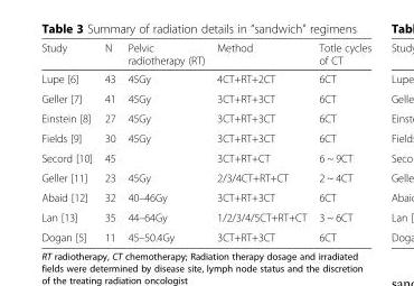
<table><thead><tr><td>Study</td><td>N</td><td>Pelvic radiotherapy (RT)</td><td>Method</td><td>Totle cycles of CT</td></tr></thead><tbody><tr><td>Lupe [6]</td><td>43</td><td>45Gy</td><td>4CT+RT+2CT</td><td>6CT</td></tr><tr><td>Geller [7]</td><td>41</td><td>45Gy</td><td>3CT+RT+3CT</td><td>6CT</td></tr><tr><td>Einstein [8]</td><td>27</td><td>45Gy</td><td>3CT+RT+3CT</td><td>6CT</td></tr><tr><td>Fields [9]</td><td>30</td><td>45Gy</td><td>3CT+RT+3CT</td><td>6CT</td></tr><tr><td>Secord [10]</td><td>45</td><td></td><td>3CT+RT+CT</td><td>6 ~ 9CT</td></tr><tr><td>Geller [11]</td><td>23</td><td>45Gy</td><td>2/3/4CT+RT+CT</td><td>2 ~ 4CT</td></tr><tr><td>Abaid [12]</td><td>32</td><td>40–46Gy</td><td>3CT+RT+3CT</td><td>6CT</td></tr><tr><td>Lan [13]</td><td>35</td><td>44–64Gy</td><td>1/2/3/4/5CT+RT+CT</td><td>3 ~ 6CT</td></tr><tr><td>Dogan [5]</td><td>11</td><td>45–50.4Gy</td><td>3CT+RT+3CT</td><td>6CT</td></tr></tbody></table>